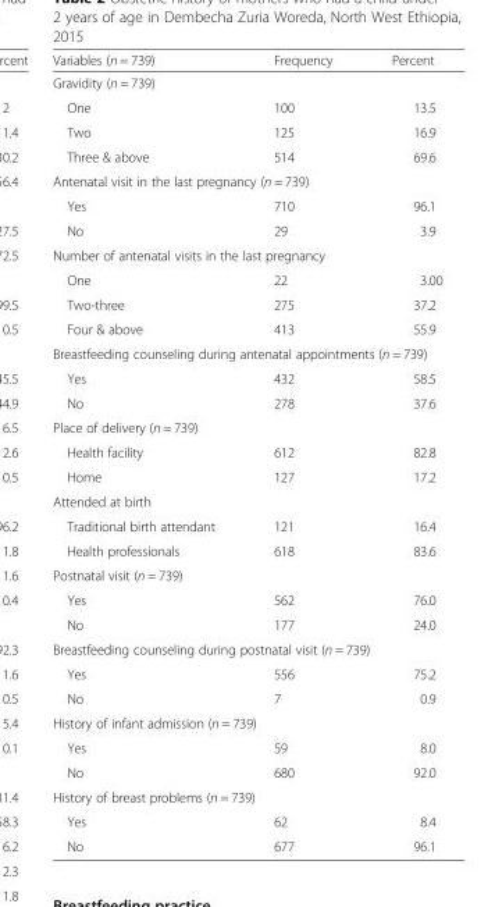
<table><thead><tr><td>Variables (n = 739)</td><td>Frequency</td><td>Percent</td></tr></thead><tbody><tr><td colspan="3">Gravidity (n = 739)</td></tr><tr><td>One</td><td>100</td><td>13.5</td></tr><tr><td>Two</td><td>125</td><td>16.9</td></tr><tr><td>Three &amp; above</td><td>514</td><td>69.6</td></tr><tr><td colspan="3">Antenatal visit in the last pregnancy (n = 739)</td></tr><tr><td>Yes</td><td>710</td><td>96.1</td></tr><tr><td>No</td><td>29</td><td>3.9</td></tr><tr><td colspan="3">Number of antenatal visits in the last pregnancy</td></tr><tr><td>One</td><td>22</td><td>3.00</td></tr><tr><td>Two-three</td><td>275</td><td>37.2</td></tr><tr><td>Four &amp; above</td><td>413</td><td>55.9</td></tr><tr><td colspan="3">Breastfeeding counseling during antenatal appointments (n = 739)</td></tr><tr><td>Yes</td><td>432</td><td>58.5</td></tr><tr><td>No</td><td>278</td><td>37.6</td></tr><tr><td colspan="3">Place of delivery (n = 739)</td></tr><tr><td>Health facility</td><td>612</td><td>82.8</td></tr><tr><td>Home</td><td>127</td><td>17.2</td></tr><tr><td colspan="3">Attended at birth</td></tr><tr><td>Traditional birth attendant</td><td>121</td><td>16.4</td></tr><tr><td>Health professionals</td><td>618</td><td>83.6</td></tr><tr><td colspan="3">Postnatal visit (n = 739)</td></tr><tr><td>Yes</td><td>562</td><td>76.0</td></tr><tr><td>No</td><td>177</td><td>24.0</td></tr><tr><td colspan="3">Breastfeeding counseling during postnatal visit (n = 739)</td></tr><tr><td>Yes</td><td>556</td><td>75.2</td></tr><tr><td>No</td><td>7</td><td>0.9</td></tr><tr><td colspan="3">History of infant admission (n = 739)</td></tr><tr><td>Yes</td><td>59</td><td>8.0</td></tr><tr><td>No</td><td>680</td><td>92.0</td></tr><tr><td colspan="3">History of breast problems (n = 739)</td></tr><tr><td>Yes</td><td>62</td><td>8.4</td></tr><tr><td>No</td><td>677</td><td>96.1</td></tr></tbody></table>